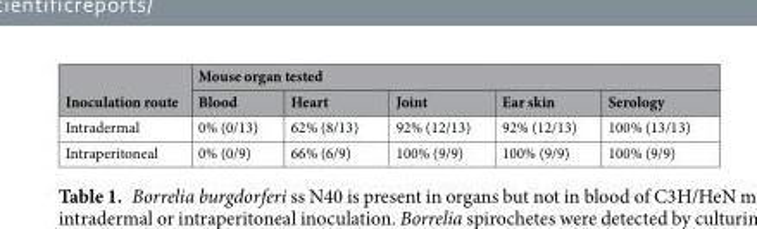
<table><thead><tr><td rowspan="2">Inoculation route</td><td colspan="5">Mouse organ tested</td></tr><tr><td>Blood</td><td>Heart</td><td>Joint</td><td>Ear skin</td><td>Serology</td></tr></thead><tbody><tr><td>Intradermal</td><td>0% (0/13)</td><td>62% (8/13)</td><td>92% (12/13)</td><td>92% (12/13)</td><td>100% (13/13)</td></tr><tr><td>Intraperitoneal</td><td>0% (0/9)</td><td>66% (6/9)</td><td>100% (9/9)</td><td>100% (9/9)</td><td>100% (9/9)</td></tr></tbody></table>